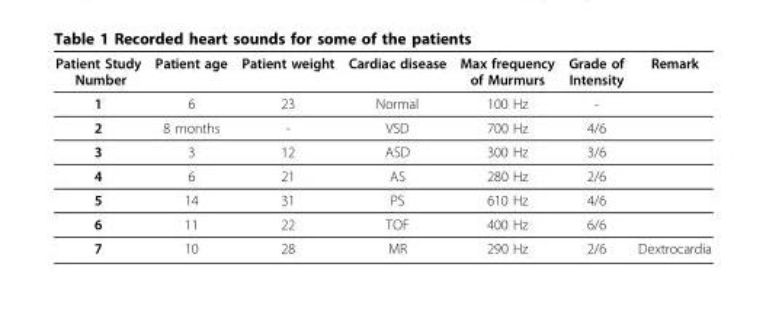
<table><thead><tr><td>Patient Study Number</td><td>Patient age</td><td>Patient weight</td><td>Cardiac disease</td><td>Max frequency of Murmurs</td><td>Grade of Intensity</td><td>Remark</td></tr></thead><tbody><tr><td>1</td><td>6</td><td>23</td><td>Normal</td><td>100 Hz</td><td>-</td><td></td></tr><tr><td>2</td><td>8 months</td><td>-</td><td>VSD</td><td>700 Hz</td><td>4/6</td><td></td></tr><tr><td>3</td><td>3</td><td>12</td><td>ASD</td><td>300 Hz</td><td>3/6</td><td></td></tr><tr><td>4</td><td>6</td><td>21</td><td>AS</td><td>280 Hz</td><td>2/6</td><td></td></tr><tr><td>5</td><td>14</td><td>31</td><td>PS</td><td>610 Hz</td><td>4/6</td><td></td></tr><tr><td>6</td><td>11</td><td>22</td><td>TOF</td><td>400 Hz</td><td>6/6</td><td></td></tr><tr><td>7</td><td>10</td><td>28</td><td>MR</td><td>290 Hz</td><td>2/6</td><td>Dextrocardia</td></tr></tbody></table>